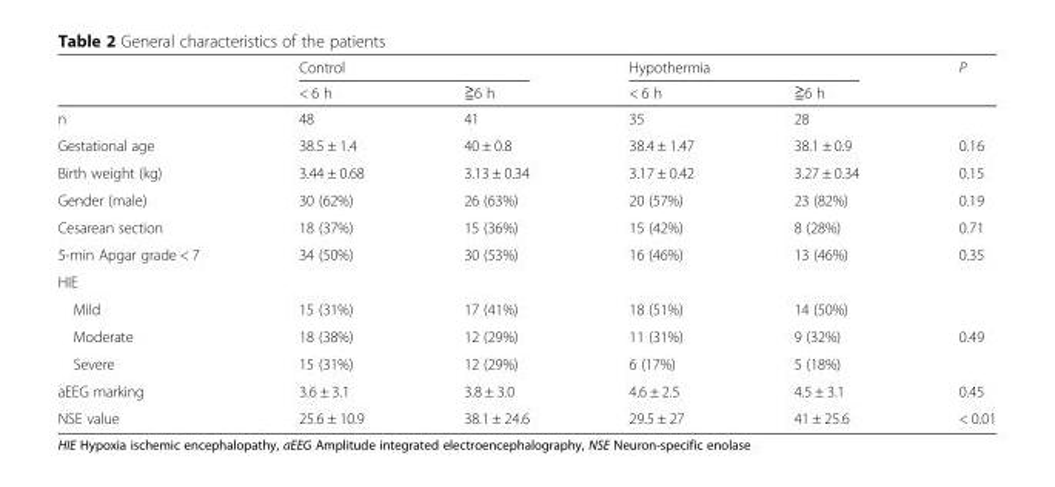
<table><thead><tr><td rowspan="2"></td><td colspan="2">Control</td><td colspan="2">Hypothermia</td><td rowspan="2">P</td></tr><tr><td>&lt; 6 h</td><td>≧6 h</td><td>&lt; 6 h</td><td>≧6 h</td></tr></thead><tbody><tr><td>n</td><td>48</td><td>41</td><td>35</td><td>28</td><td></td></tr><tr><td>Gestational age</td><td>38.5 ± 1.4</td><td>40 ± 0.8</td><td>38.4 ± 1.47</td><td>38.1 ± 0.9</td><td>0.16</td></tr><tr><td>Birth weight (kg)</td><td>3.44 ± 0.68</td><td>3.13 ± 0.34</td><td>3.17 ± 0.42</td><td>3.27 ± 0.34</td><td>0.15</td></tr><tr><td>Gender (male)</td><td>30 (62%)</td><td>26 (63%)</td><td>20 (57%)</td><td>23 (82%)</td><td>0.19</td></tr><tr><td>Cesarean section</td><td>18 (37%)</td><td>15 (36%)</td><td>15 (42%)</td><td>8 (28%)</td><td>0.71</td></tr><tr><td>5-min Apgar grade &lt; 7</td><td>34 (50%)</td><td>30 (53%)</td><td>16 (46%)</td><td>13 (46%)</td><td>0.35</td></tr><tr><td colspan="6">HIE</td></tr><tr><td>Mild</td><td>15 (31%)</td><td>17 (41%)</td><td>18 (51%)</td><td>14 (50%)</td><td></td></tr><tr><td>Moderate</td><td>18 (38%)</td><td>12 (29%)</td><td>11 (31%)</td><td>9 (32%)</td><td>0.49</td></tr><tr><td>Severe</td><td>15 (31%)</td><td>12 (29%)</td><td>6 (17%)</td><td>5 (18%)</td><td></td></tr><tr><td>aEEG marking</td><td>3.6 ± 3.1</td><td>3.8 ± 3.0</td><td>4.6 ± 2.5</td><td>4.5 ± 3.1</td><td>0.45</td></tr><tr><td>NSE value</td><td>25.6 ± 10.9</td><td>38.1 ± 24.6</td><td>29.5 ± 27</td><td>41 ± 25.6</td><td>&lt; 0.01</td></tr></tbody></table>